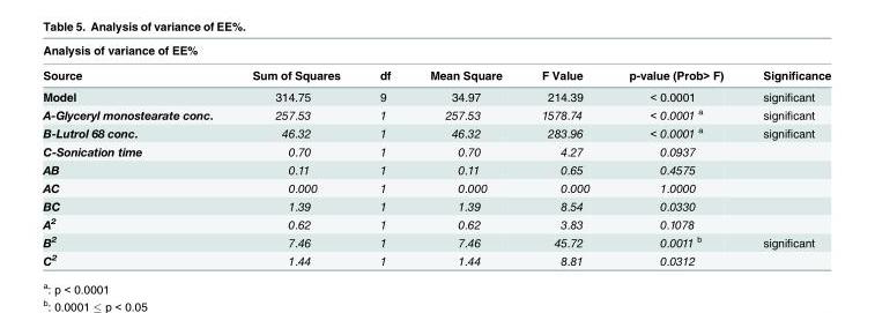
<table><thead><tr><td colspan="7">Analysis of variance of EE%</td></tr><tr><td>Source</td><td>Sum of Squares</td><td>df</td><td>Mean Square</td><td>F Value</td><td>p-value (Prob&gt; F)</td><td>Significance</td></tr></thead><tbody><tr><td>Model</td><td>314.75</td><td>9</td><td>34.97</td><td>214.39</td><td>&lt; 0.0001</td><td>significant</td></tr><tr><td>A-Glyceryl monostearate conc.</td><td>257.53</td><td>1</td><td>257.53</td><td>1578.74</td><td>&lt; 0.0001 <sup>a</sup></td><td>significant</td></tr><tr><td>B-Lutrol 68 conc.</td><td>46.32</td><td>1</td><td>46.32</td><td>283.96</td><td>&lt; 0.0001 <sup>a</sup></td><td>significant</td></tr><tr><td>C-Sonication time</td><td>0.70</td><td>1</td><td>0.70</td><td>4.27</td><td>0.0937</td><td></td></tr><tr><td>AB</td><td>0.11</td><td>1</td><td>0.11</td><td>0.65</td><td>0.4575</td><td></td></tr><tr><td>AC</td><td>0.000</td><td>1</td><td>0.000</td><td>0.000</td><td>1.0000</td><td></td></tr><tr><td>BC</td><td>1.39</td><td>1</td><td>1.39</td><td>8.54</td><td>0.0330</td><td></td></tr><tr><td>A<sup>2</sup></td><td>0.62</td><td>1</td><td>0.62</td><td>3.83</td><td>0.1078</td><td></td></tr><tr><td>B<sup>2</sup></td><td>7.46</td><td>1</td><td>7.46</td><td>45.72</td><td>0.0011 <sup>b</sup></td><td>significant</td></tr><tr><td>C<sup>2</sup></td><td>1.44</td><td>1</td><td>1.44</td><td>8.81</td><td>0.0312</td><td></td></tr></tbody></table>